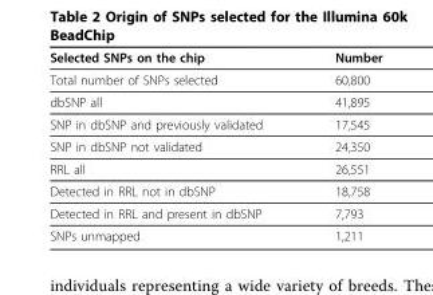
<table><thead><tr><td>Selected SNPs on the chip</td><td>Number</td></tr></thead><tbody><tr><td>Total number of SNPs selected</td><td>60,800</td></tr><tr><td>dbSNP all</td><td>41,895</td></tr><tr><td>SNP in dbSNP and previously validated</td><td>17,545</td></tr><tr><td>SNP in dbSNP not validated</td><td>24,350</td></tr><tr><td>RRL all</td><td>26,551</td></tr><tr><td>Detected in RRL not in dbSNP</td><td>18,758</td></tr><tr><td>Detected in RRL and present in dbSNP</td><td>7,793</td></tr><tr><td>SNPs unmapped</td><td>1,211</td></tr></tbody></table>